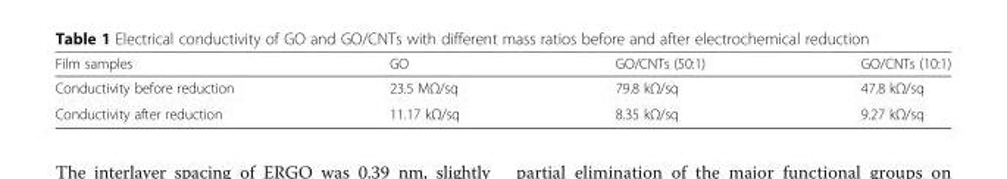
<table><thead><tr><td>Film samples</td><td>GO</td><td>GO/CNTs (50:1)</td><td>GO/CNTs (10:1)</td></tr></thead><tbody><tr><td>Conductivity before reduction</td><td>23.5 MΩ/sq</td><td>79.8 kΩ/sq</td><td>47.8 kΩ/sq</td></tr><tr><td>Conductivity after reduction</td><td>11.17 kΩ/sq</td><td>8.35 kΩ/sq</td><td>9.27 kΩ/sq</td></tr></tbody></table>